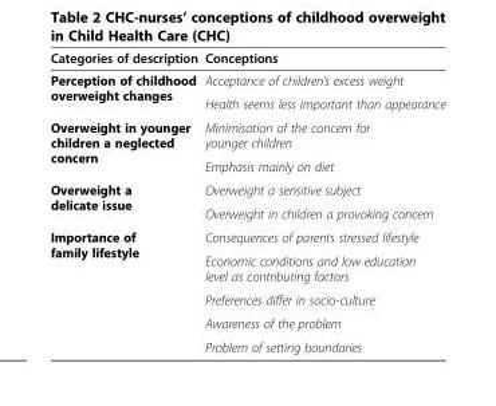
<table><thead><tr><td>Categories of description</td><td>Conceptions</td></tr></thead><tbody><tr><td rowspan="2">Perception of childhood overweight changes</td><td>Acceptance of children’s excess weight</td></tr><tr><td>Health seems less important than appearance</td></tr><tr><td rowspan="2">Overweight in younger children a neglected concern</td><td>Minimisation of the concern for younger children</td></tr><tr><td>Emphasis mainly on diet</td></tr><tr><td rowspan="2">Overweight a delicate issue</td><td>Overweight a sensitive subject</td></tr><tr><td>Overweight in children a provoking concern</td></tr><tr><td rowspan="5">Importance of family lifestyle</td><td>Consequences of parents stressed lifestyle</td></tr><tr><td>Economic conditions and low education level as contributing factors</td></tr><tr><td>Preferences differ in socio-culture</td></tr><tr><td>Awareness of the problem</td></tr><tr><td>Problem of setting boundaries</td></tr></tbody></table>